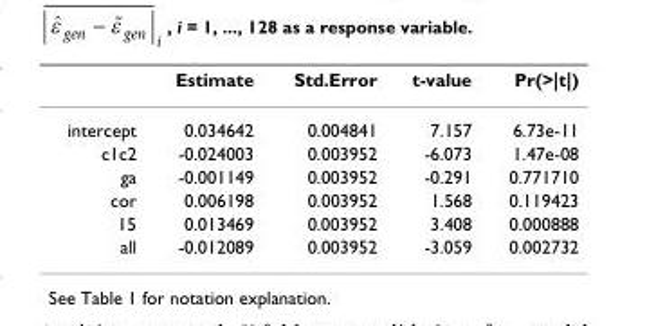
<table><thead><tr><td></td><td>Estimate</td><td>Std.Error</td><td>t-value</td><td>Pr(&gt;|t|)</td></tr></thead><tbody><tr><td>intercept</td><td>0.034642</td><td>0.004841</td><td>7.157</td><td>6.73e-11</td></tr><tr><td>c1c2</td><td>-0.024003</td><td>0.003952</td><td>-6.073</td><td>1.47e-08</td></tr><tr><td>ga</td><td>-0.001149</td><td>0.003952</td><td>-0.291</td><td>0.771710</td></tr><tr><td>cor</td><td>0.006198</td><td>0.003952</td><td>1.568</td><td>0.119423</td></tr><tr><td>15</td><td>0.013469</td><td>0.003952</td><td>3.408</td><td>0.000888</td></tr><tr><td>all</td><td>-0.012089</td><td>0.003952</td><td>-3.059</td><td>0.002732</td></tr></tbody></table>